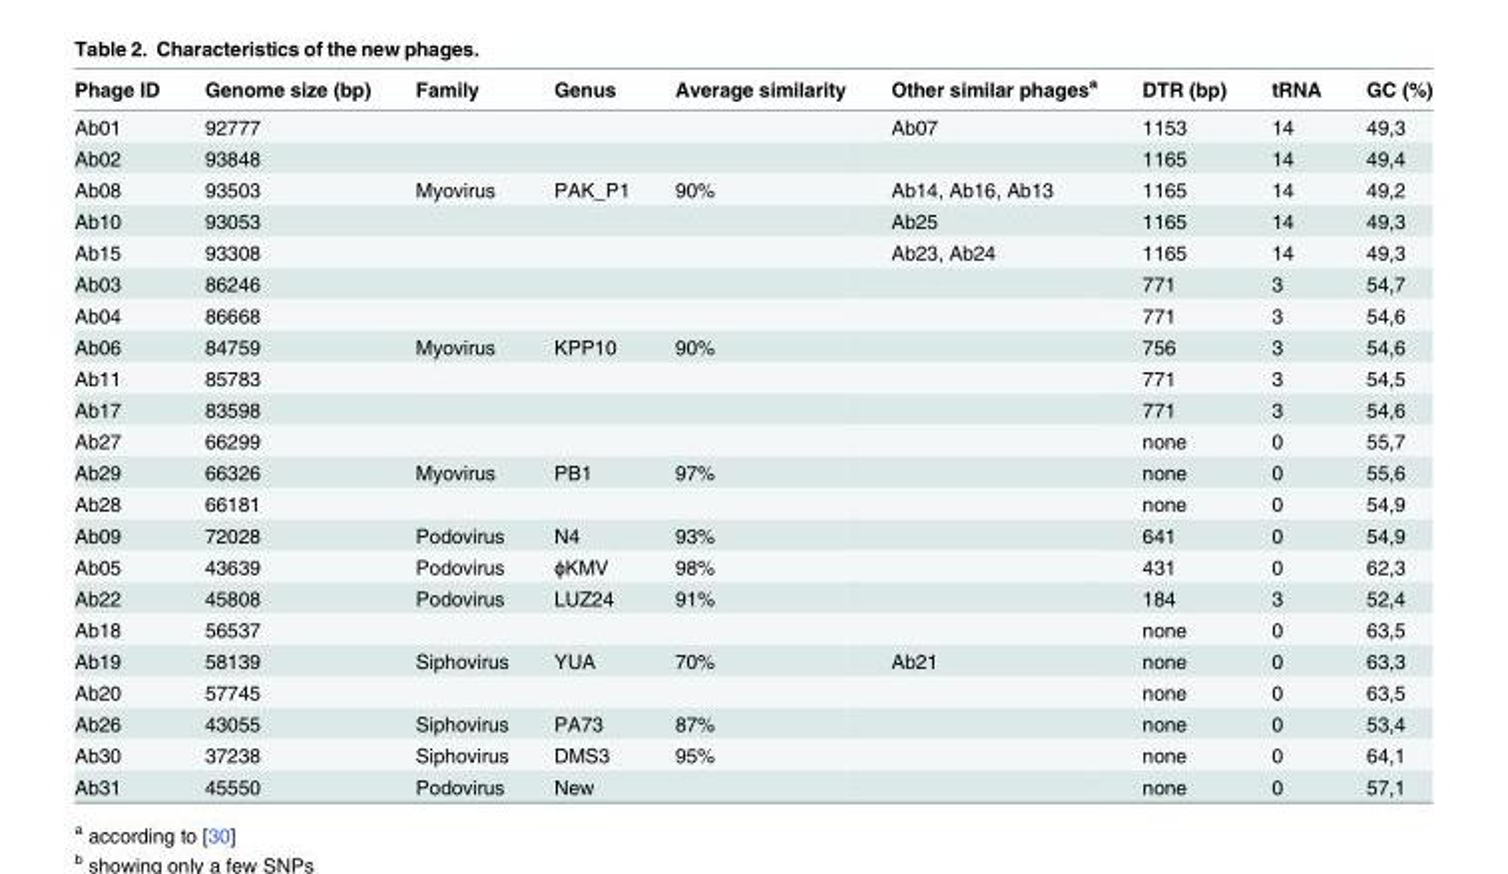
<table><thead><tr><td>Phage ID</td><td>Genome size (bp)</td><td>Family</td><td>Genus</td><td>Average similarity</td><td>Other similar phages<sup>a</sup></td><td>DTR (bp)</td><td>tRNA</td><td>GC (%)</td></tr></thead><tbody><tr><td>Ab01</td><td>92777</td><td></td><td></td><td></td><td>Ab07</td><td>1153</td><td>14</td><td>49,3</td></tr><tr><td>Ab02</td><td>93848</td><td></td><td></td><td></td><td></td><td>1165</td><td>14</td><td>49,4</td></tr><tr><td>Ab08</td><td>93503</td><td>Myovirus</td><td>PAK_P1</td><td>90%</td><td>Ab14, Ab16, Ab13</td><td>1165</td><td>14</td><td>49,2</td></tr><tr><td>Ab10</td><td>93053</td><td></td><td></td><td></td><td>Ab25</td><td>1165</td><td>14</td><td>49,3</td></tr><tr><td>Ab15</td><td>93308</td><td></td><td></td><td></td><td>Ab23, Ab24</td><td>1165</td><td>14</td><td>49,3</td></tr><tr><td>Ab03</td><td>86246</td><td></td><td></td><td></td><td></td><td>771</td><td>3</td><td>54,7</td></tr><tr><td>Ab04</td><td>86668</td><td></td><td></td><td></td><td></td><td>771</td><td>3</td><td>54,6</td></tr><tr><td>Ab06</td><td>84759</td><td>Myovirus</td><td>KPP10</td><td>90%</td><td></td><td>756</td><td>3</td><td>54,6</td></tr><tr><td>Ab11</td><td>85783</td><td></td><td></td><td></td><td></td><td>771</td><td>3</td><td>54,5</td></tr><tr><td>Ab17</td><td>83598</td><td></td><td></td><td></td><td></td><td>771</td><td>3</td><td>54,6</td></tr><tr><td>Ab27</td><td>66299</td><td></td><td></td><td></td><td></td><td>none</td><td>0</td><td>55,7</td></tr><tr><td>Ab29</td><td>66326</td><td>Myovirus</td><td>PB1</td><td>97%</td><td></td><td>none</td><td>0</td><td>55,6</td></tr><tr><td>Ab28</td><td>66181</td><td></td><td></td><td></td><td></td><td>none</td><td>0</td><td>54,9</td></tr><tr><td>Ab09</td><td>72028</td><td>Podovirus</td><td>N4</td><td>93%</td><td></td><td>641</td><td>0</td><td>54,9</td></tr><tr><td>Ab05</td><td>43639</td><td>Podovirus</td><td>ɸKMV</td><td>98%</td><td></td><td>431</td><td>0</td><td>62,3</td></tr><tr><td>Ab22</td><td>45808</td><td>Podovirus</td><td>LUZ24</td><td>91%</td><td></td><td>184</td><td>3</td><td>52,4</td></tr><tr><td>Ab18</td><td>56537</td><td></td><td></td><td></td><td></td><td>none</td><td>0</td><td>63,5</td></tr><tr><td>Ab19</td><td>58139</td><td>Siphovirus</td><td>YUA</td><td>70%</td><td>Ab21</td><td>none</td><td>0</td><td>63,3</td></tr><tr><td>Ab20</td><td>57745</td><td></td><td></td><td></td><td></td><td>none</td><td>0</td><td>63,5</td></tr><tr><td>Ab26</td><td>43055</td><td>Siphovirus</td><td>PA73</td><td>87%</td><td></td><td>none</td><td>0</td><td>53,4</td></tr><tr><td>Ab30</td><td>37238</td><td>Siphovirus</td><td>DMS3</td><td>95%</td><td></td><td>none</td><td>0</td><td>64,1</td></tr><tr><td>Ab31</td><td>45550</td><td>Podovirus</td><td>New</td><td></td><td></td><td>none</td><td>0</td><td>57,1</td></tr></tbody></table>